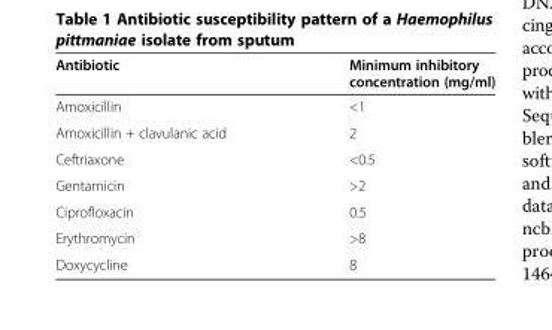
<table><thead><tr><td>Antibiotic</td><td>Minimum inhibitory concentration (mg/ml)</td></tr></thead><tbody><tr><td>Amoxicillin</td><td>&lt;1</td></tr><tr><td>Amoxicillin + clavulanic acid</td><td>2</td></tr><tr><td>Ceftriaxone</td><td>&lt;0.5</td></tr><tr><td>Gentamicin</td><td>&gt;2</td></tr><tr><td>Ciprofloxacin</td><td>0.5</td></tr><tr><td>Erythromycin</td><td>&gt;8</td></tr><tr><td>Doxycycline</td><td>8</td></tr></tbody></table>